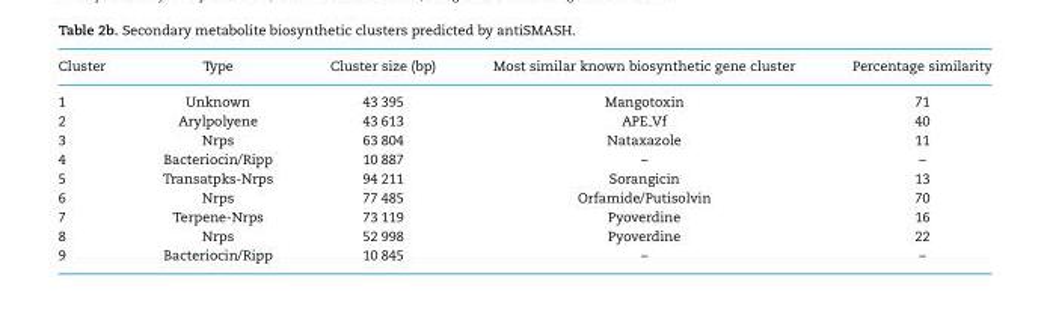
<table><thead><tr><td>Cluster</td><td>Type</td><td>Cluster size (bp)</td><td>Most similar known biosynthetic gene cluster</td><td>Percentage similarity</td></tr></thead><tbody><tr><td>1</td><td>Unknown</td><td>43 395</td><td>Mangotoxin</td><td>71</td></tr><tr><td>2</td><td>Arylpolyene</td><td>43 613</td><td>APE Vf</td><td>40</td></tr><tr><td>3</td><td>Nrps</td><td>63 804</td><td>Nataxazole</td><td>11</td></tr><tr><td>4</td><td>Bacteriocin/Ripp</td><td>10 887</td><td>–</td><td>–</td></tr><tr><td>5</td><td>Transatpks-Nrps</td><td>94 211</td><td>Sorangicin</td><td>13</td></tr><tr><td>6</td><td>Nrps</td><td>77 485</td><td>Orfamide/Putisolvin</td><td>70</td></tr><tr><td>7</td><td>Terpene-Nrps</td><td>73 119</td><td>Pyoverdine</td><td>16</td></tr><tr><td>8</td><td>Nrps</td><td>52 998</td><td>Pyoverdine</td><td>22</td></tr><tr><td>9</td><td>Bacteriocin/Ripp</td><td>10 845</td><td>–</td><td>–</td></tr></tbody></table>